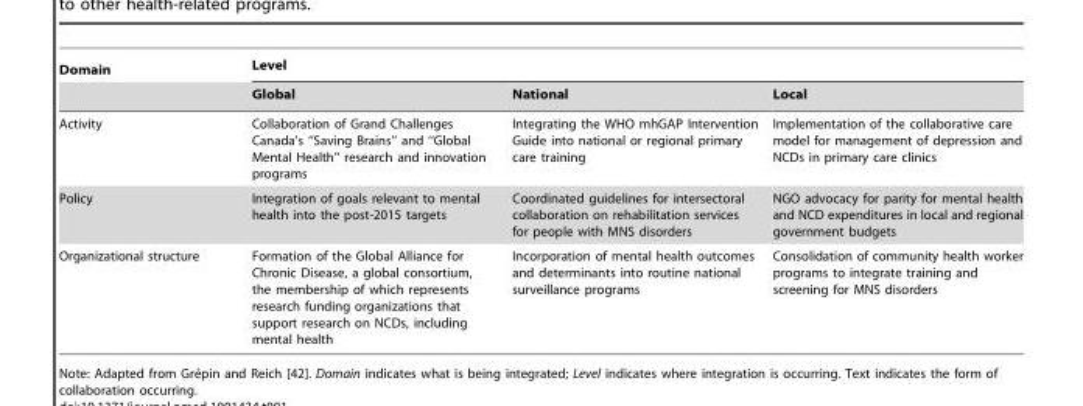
<table><thead><tr><td rowspan="2">Domain</td><td colspan="3">Level</td></tr><tr><td>Global</td><td>National</td><td>Local</td></tr></thead><tbody><tr><td>Activity</td><td>Collaboration of Grand Challenges Canada’s ‘‘Saving Brains’’ and ‘‘Global Mental Health’’ research and innovation programs</td><td>Integrating the WHO mhGAP Intervention Guide into national or regional primary care training</td><td>Implementation of the collaborative care model for management of depression and NCDs in primary care clinics</td></tr><tr><td>Policy</td><td>Integration of goals relevant to mental health into the post-2015 targets</td><td>Coordinated guidelines for intersectoral collaboration on rehabilitation services for people with MNS disorders</td><td>NGO advocacy for parity for mental health and NCD expenditures in local and regional government budgets</td></tr><tr><td>Organizational structure</td><td>Formation of the Global Alliance for Chronic Disease, a global consortium, the membership of which represents research funding organizations that support research on NCDs, including mental health</td><td>Incorporation of mental health outcomes and determinants into routine national surveillance programs</td><td>Consolidation of community health worker programs to integrate training and screening for MNS disorders</td></tr></tbody></table>